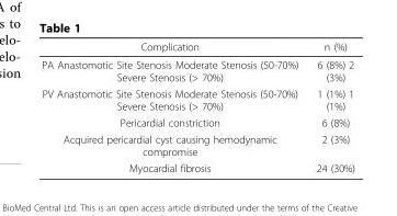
<table><thead><tr><td>Complication</td><td>n (%)</td></tr></thead><tbody><tr><td>PA Anastomotic Site Stenosis Moderate Stenosis (50-70%) Severe Stenosis (&gt; 70%)</td><td>6 (8%) 2 (3%)</td></tr><tr><td>PV Anastomotic Site Stenosis Moderate Stenosis (50-70%) Severe Stenosis (&gt; 70%)</td><td>1 (1%) 1 (1%)</td></tr><tr><td>Pericardial constriction</td><td>6 (8%)</td></tr><tr><td>Acquired pericardial cyst causing hemodynamic compromise</td><td>2 (3%)</td></tr><tr><td>Myocardial fibrosis</td><td>24 (30%)</td></tr></tbody></table>